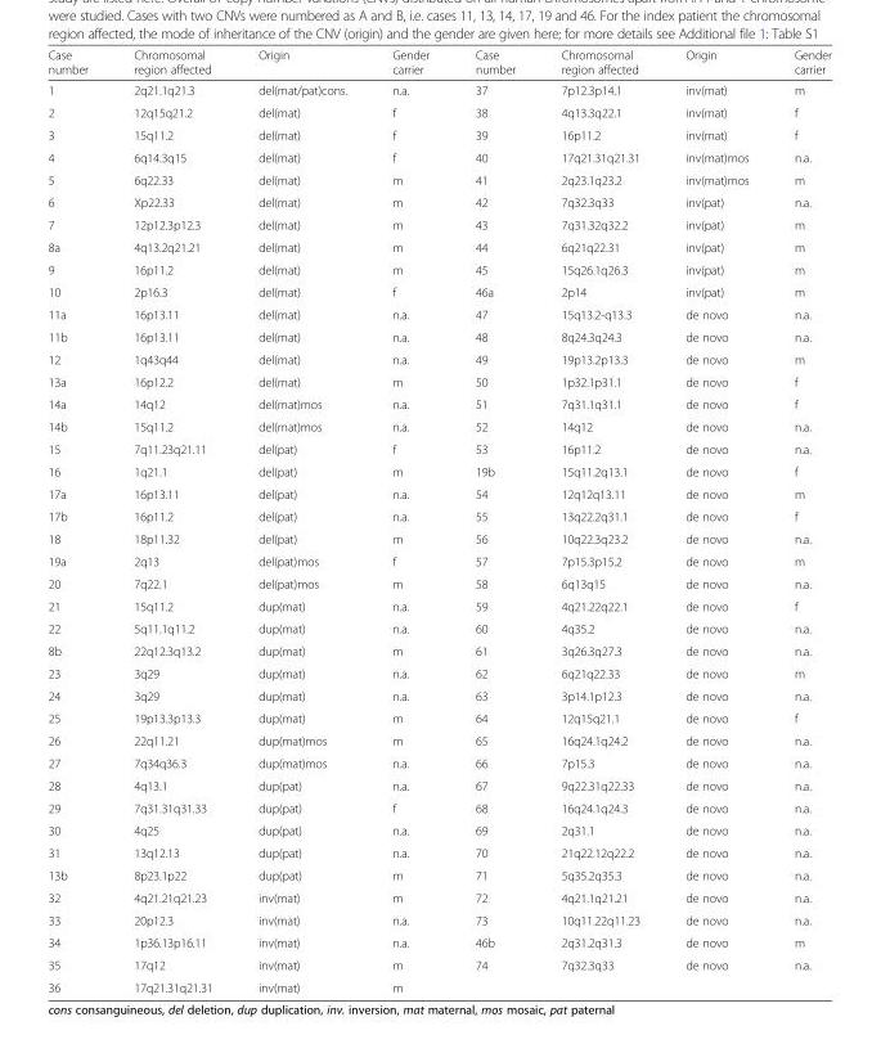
<table><thead><tr><td>Case number</td><td>Chromosomal region affected</td><td>Origin</td><td>Gender carrier</td><td>Case number</td><td>Chromosomal region affected</td><td>Origin</td><td>Gender carrier</td></tr></thead><tbody><tr><td>1</td><td>2q21.1q21.3</td><td>del(mat/pat)cons.</td><td>n.a.</td><td>37</td><td>7p12.3p14.1</td><td>inv(mat)</td><td>m</td></tr><tr><td>2</td><td>12q15q21.2</td><td>del(mat)</td><td>f</td><td>38</td><td>4q13.3q22.1</td><td>inv(mat)</td><td>f</td></tr><tr><td>3</td><td>15q11.2</td><td>del(mat)</td><td>f</td><td>39</td><td>16p11.2</td><td>inv(mat)</td><td>f</td></tr><tr><td>4</td><td>6q14.3q15</td><td>del(mat)</td><td>f</td><td>40</td><td>17q21.31q21.31</td><td>inv(mat)mos</td><td>n.a.</td></tr><tr><td>5</td><td>6q22.33</td><td>del(mat)</td><td>m</td><td>41</td><td>2q23.1q23.2</td><td>inv(mat)mos</td><td>m</td></tr><tr><td>6</td><td>Xp22.33</td><td>del(mat)</td><td>m</td><td>42</td><td>7q32.3q33</td><td>inv(pat)</td><td>n.a.</td></tr><tr><td>7</td><td>12p12.3p12.3</td><td>del(mat)</td><td>m</td><td>43</td><td>7q31.32q32.2</td><td>inv(pat)</td><td>m</td></tr><tr><td>8a</td><td>4q13.2q21.21</td><td>del(mat)</td><td>m</td><td>44</td><td>6q21q22.31</td><td>inv(pat)</td><td>m</td></tr><tr><td>9</td><td>16p11.2</td><td>del(mat)</td><td>m</td><td>45</td><td>15q26.1q26.3</td><td>inv(pat)</td><td>m</td></tr><tr><td>10</td><td>2p16.3</td><td>del(mat)</td><td>f</td><td>46a</td><td>2p14</td><td>inv(pat)</td><td>m</td></tr><tr><td>11a</td><td>16p13.11</td><td>del(mat)</td><td>n.a.</td><td>47</td><td>15q13.2-q13.3</td><td>de novo</td><td>n.a.</td></tr><tr><td>11b</td><td>16p13.11</td><td>del(mat)</td><td>n.a.</td><td>48</td><td>8q24.3q24.3</td><td>de novo</td><td>n.a.</td></tr><tr><td>12</td><td>1q43q44</td><td>del(mat)</td><td>n.a.</td><td>49</td><td>19p13.2p13.3</td><td>de novo</td><td>m</td></tr><tr><td>13a</td><td>16p12.2</td><td>del(mat)</td><td>m</td><td>50</td><td>1p32.1p31.1</td><td>de novo</td><td>f</td></tr><tr><td>14a</td><td>14q12</td><td>del(mat)mos</td><td>n.a.</td><td>51</td><td>7q31.1q31.1</td><td>de novo</td><td>f</td></tr><tr><td>14b</td><td>15q11.2</td><td>del(mat)mos</td><td>n.a.</td><td>52</td><td>14q12</td><td>de novo</td><td>n.a.</td></tr><tr><td>15</td><td>7q11.23q21.11</td><td>del(pat)</td><td>f</td><td>53</td><td>16p11.2</td><td>de novo</td><td>n.a.</td></tr><tr><td>16</td><td>1q21.1</td><td>del(pat)</td><td>m</td><td>19b</td><td>15q11.2q13.1</td><td>de novo</td><td>f</td></tr><tr><td>17a</td><td>16p13.11</td><td>del(pat)</td><td>n.a.</td><td>54</td><td>12q12q13.11</td><td>de novo</td><td>m</td></tr><tr><td>17b</td><td>16p11.2</td><td>del(pat)</td><td>n.a.</td><td>55</td><td>13q22.2q31.1</td><td>de novo</td><td>f</td></tr><tr><td>18</td><td>18p11.32</td><td>del(pat)</td><td>m</td><td>56</td><td>10q22.3q23.2</td><td>de novo</td><td>n.a.</td></tr><tr><td>19a</td><td>2q13</td><td>del(pat)mos</td><td>f</td><td>57</td><td>7p15.3p15.2</td><td>de novo</td><td>m</td></tr><tr><td>20</td><td>7q22.1</td><td>del(pat)mos</td><td>m</td><td>58</td><td>6q13q15</td><td>de novo</td><td>n.a.</td></tr><tr><td>21</td><td>15q11.2</td><td>dup(mat)</td><td>n.a.</td><td>59</td><td>4q21.22q22.1</td><td>de novo</td><td>f</td></tr><tr><td>22</td><td>5q11.1q11.2</td><td>dup(mat)</td><td>n.a.</td><td>60</td><td>4q35.2</td><td>de novo</td><td>n.a.</td></tr><tr><td>8b</td><td>22q12.3q13.2</td><td>dup(mat)</td><td>m</td><td>61</td><td>3q26.3q27.3</td><td>de novo</td><td>n.a.</td></tr><tr><td>23</td><td>3q29</td><td>dup(mat)</td><td>n.a.</td><td>62</td><td>6q21q22.33</td><td>de novo</td><td>m</td></tr><tr><td>24</td><td>3q29</td><td>dup(mat)</td><td>n.a.</td><td>63</td><td>3p14.1p12.3</td><td>de novo</td><td>n.a.</td></tr><tr><td>25</td><td>19p13.3p13.3</td><td>dup(mat)</td><td>m</td><td>64</td><td>12q15q21.1</td><td>de novo</td><td>f</td></tr><tr><td>26</td><td>22q11.21</td><td>dup(mat)mos</td><td>m</td><td>65</td><td>16q24.1q24.2</td><td>de novo</td><td>n.a.</td></tr><tr><td>27</td><td>7q34q36.3</td><td>dup(mat)mos</td><td>n.a.</td><td>66</td><td>7p15.3</td><td>de novo</td><td>n.a.</td></tr><tr><td>28</td><td>4q13.1</td><td>dup(pat)</td><td>n.a.</td><td>67</td><td>9q22.31q22.33</td><td>de novo</td><td>n.a.</td></tr><tr><td>29</td><td>7q31.31q31.33</td><td>dup(pat)</td><td>f</td><td>68</td><td>16q24.1q24.3</td><td>de novo</td><td>n.a.</td></tr><tr><td>30</td><td>4q25</td><td>dup(pat)</td><td>n.a.</td><td>69</td><td>2q31.1</td><td>de novo</td><td>n.a.</td></tr><tr><td>31</td><td>13q12.13</td><td>dup(pat)</td><td>n.a.</td><td>70</td><td>21q22.12q22.2</td><td>de novo</td><td>n.a.</td></tr><tr><td>13b</td><td>8p23.1p22</td><td>dup(pat)</td><td>m</td><td>71</td><td>5q35.2q35.3</td><td>de novo</td><td>n.a.</td></tr><tr><td>32</td><td>4q21.21q21.23</td><td>inv(mat)</td><td>m</td><td>72</td><td>4q21.1q21.21</td><td>de novo</td><td>n.a.</td></tr><tr><td>33</td><td>20p12.3</td><td>inv(mat)</td><td>n.a.</td><td>73</td><td>10q11.22q11.23</td><td>de novo</td><td>n.a.</td></tr><tr><td>34</td><td>1p36.13p16.11</td><td>inv(mat)</td><td>n.a.</td><td>46b</td><td>2q31.2q31.3</td><td>de novo</td><td>m</td></tr><tr><td>35</td><td>17q12</td><td>inv(mat)</td><td>m</td><td>74</td><td>7q32.3q33</td><td>de novo</td><td>n.a.</td></tr><tr><td>36</td><td>17q21.31q21.31</td><td>inv(mat)</td><td>m</td><td></td><td></td><td></td><td></td></tr></tbody></table>